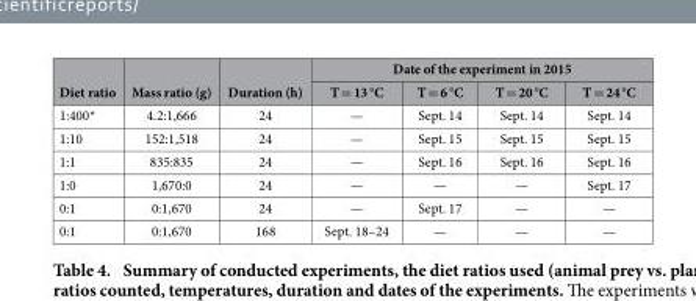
<table><thead><tr><td rowspan="2">Diet ratio</td><td rowspan="2">Mass ratio (g)</td><td rowspan="2">Duration (h)</td><td colspan="4">Date of the experiment in 2015</td></tr><tr><td>T = 13 °C</td><td>T = 6 °C</td><td>T = 20 °C</td><td>T = 24 °C</td></tr></thead><tbody><tr><td>1:400*</td><td>4.2:1,666</td><td>24</td><td>—</td><td>Sept. 14</td><td>Sept. 14</td><td>Sept. 14</td></tr><tr><td>1:10</td><td>152:1,518</td><td>24</td><td>—</td><td>Sept. 15</td><td>Sept. 15</td><td>Sept. 15</td></tr><tr><td>1:1</td><td>835:835</td><td>24</td><td>—</td><td>Sept. 16</td><td>Sept. 16</td><td>Sept. 16</td></tr><tr><td>1:0</td><td>1,670:0</td><td>24</td><td>—</td><td>—</td><td>—</td><td>Sept. 17</td></tr><tr><td>0:1</td><td>0:1,670</td><td>24</td><td>—</td><td>Sept. 17</td><td>—</td><td>—</td></tr><tr><td>0:1</td><td>0:1,670</td><td>168</td><td>Sept. 18–24</td><td>—</td><td>—</td><td>—</td></tr></tbody></table>